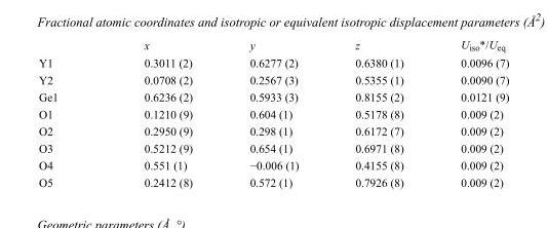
<table><thead><tr><td></td><td>x</td><td>y</td><td>z</td><td>U<sub>iso</sub>*/U<sub>eq</sub></td></tr></thead><tbody><tr><td>Y1</td><td>0.3011 (2)</td><td>0.6277 (2)</td><td>0.6380 (1)</td><td>0.0096 (7)</td></tr><tr><td>Y2</td><td>0.0708 (2)</td><td>0.2567 (3)</td><td>0.5355 (1)</td><td>0.0090 (7)</td></tr><tr><td>Ge1</td><td>0.6236 (2)</td><td>0.5933 (3)</td><td>0.8155 (2)</td><td>0.0121 (9)</td></tr><tr><td>O1</td><td>0.1210 (9)</td><td>0.604 (1)</td><td>0.5178 (8)</td><td>0.009 (2)</td></tr><tr><td>O2</td><td>0.2950 (9)</td><td>0.298 (1)</td><td>0.6172 (7)</td><td>0.009 (2)</td></tr><tr><td>O3</td><td>0.5212 (9)</td><td>0.654 (1)</td><td>0.6971 (8)</td><td>0.009 (2)</td></tr><tr><td>O4</td><td>0.551 (1)</td><td>−0.006 (1)</td><td>0.4155 (8)</td><td>0.009 (2)</td></tr><tr><td>O5</td><td>0.2412 (8)</td><td>0.572 (1)</td><td>0.7926 (8)</td><td>0.009 (2)</td></tr></tbody></table>